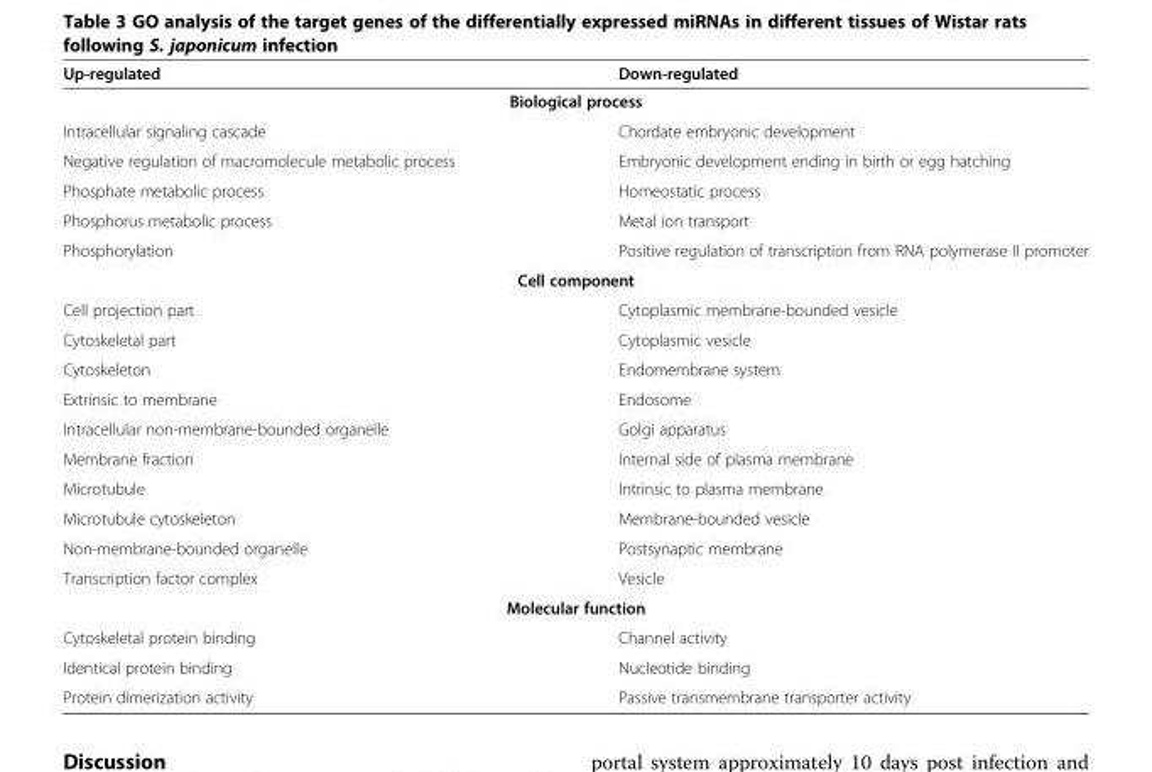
<table><thead><tr><td>Up-regulated</td><td>Down-regulated</td></tr></thead><tbody><tr><td colspan="2">Biological process</td></tr><tr><td>Intracellular signaling cascade</td><td>Chordate embryonic development</td></tr><tr><td>Negative regulation of macromolecule metabolic process</td><td>Embryonic development ending in birth or egg hatching</td></tr><tr><td>Phosphate metabolic process</td><td>Homeostatic process</td></tr><tr><td>Phosphorus metabolic process</td><td>Metal ion transport</td></tr><tr><td>Phosphorylation</td><td>Positive regulation of transcription from RNA polymerase II promoter</td></tr><tr><td colspan="2">Cell component</td></tr><tr><td>Cell projection part</td><td>Cytoplasmic membrane-bounded vesicle</td></tr><tr><td>Cytoskeletal part</td><td>Cytoplasmic vesicle</td></tr><tr><td>Cytoskeleton</td><td>Endomembrane system</td></tr><tr><td>Extrinsic to membrane</td><td>Endosome</td></tr><tr><td>Intracellular non-membrane-bounded organelle</td><td>Golgi apparatus</td></tr><tr><td>Membrane fraction</td><td>Internal side of plasma membrane</td></tr><tr><td>Microtubule</td><td>Intrinsic to plasma membrane</td></tr><tr><td>Microtubule cytoskeleton</td><td>Membrane-bounded vesicle</td></tr><tr><td>Non-membrane-bounded organelle</td><td>Postsynaptic membrane</td></tr><tr><td>Transcription factor complex</td><td>Vesicle</td></tr><tr><td colspan="2">Molecular function</td></tr><tr><td>Cytoskeletal protein binding</td><td>Channel activity</td></tr><tr><td>Identical protein binding</td><td>Nucleotide binding</td></tr><tr><td>Protein dimerization activity</td><td>Passive transmembrane transporter activity</td></tr></tbody></table>